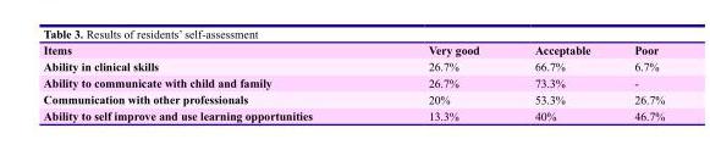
<table><thead><tr><td>Items</td><td>Very good</td><td>Acceptable</td><td>Poor</td></tr></thead><tbody><tr><td>Ability in clinical skills</td><td>26.7%</td><td>66.7%</td><td>6.7%</td></tr><tr><td>Ability to communicate with child and family</td><td>26.7%</td><td>73.3%</td><td>-</td></tr><tr><td>Communication with other professionals</td><td>20%</td><td>53.3%</td><td>26.7%</td></tr><tr><td>Ability to self improve and use learning opportunities</td><td>13.3%</td><td>40%</td><td>46.7%</td></tr></tbody></table>